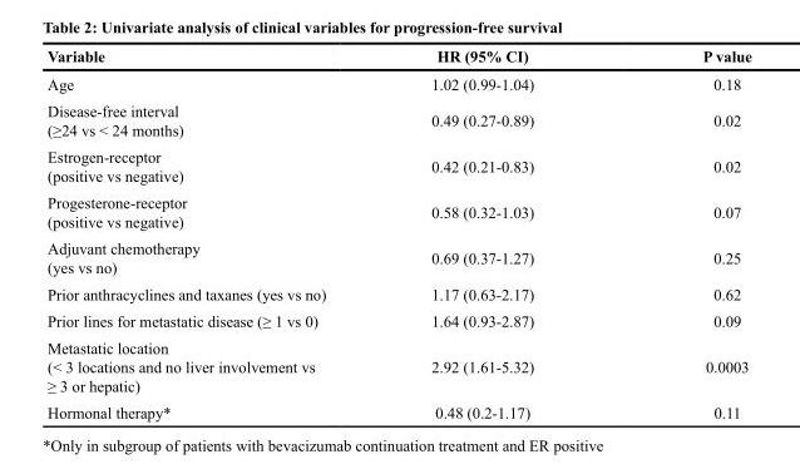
<table><thead><tr><td>Variable</td><td>HR (95% CI)</td><td>P value</td></tr></thead><tbody><tr><td>Age</td><td>1.02 (0.99-1.04)</td><td>0.18</td></tr><tr><td>Disease-free interval (≥24 vs &lt; 24 months)</td><td>0.49 (0.27-0.89)</td><td>0.02</td></tr><tr><td>Estrogen-receptor (positive vs negative)</td><td>0.42 (0.21-0.83)</td><td>0.02</td></tr><tr><td>Progesterone-receptor (positive vs negative)</td><td>0.58 (0.32-1.03)</td><td>0.07</td></tr><tr><td>Adjuvant chemotherapy (yes vs no)</td><td>0.69 (0.37-1.27)</td><td>0.25</td></tr><tr><td>Prior anthracyclines and taxanes (yes vs no)</td><td>1.17 (0.63-2.17)</td><td>0.62</td></tr><tr><td>Prior lines for metastatic disease (≥ 1 vs 0)</td><td>1.64 (0.93-2.87)</td><td>0.09</td></tr><tr><td>Metastatic location (&lt; 3 locations and no liver involvement vs ≥ 3 or hepatic)</td><td>2.92 (1.61-5.32)</td><td>0.0003</td></tr><tr><td>Hormonal therapy*</td><td>0.48 (0.2-1.17)</td><td>0.11</td></tr></tbody></table>